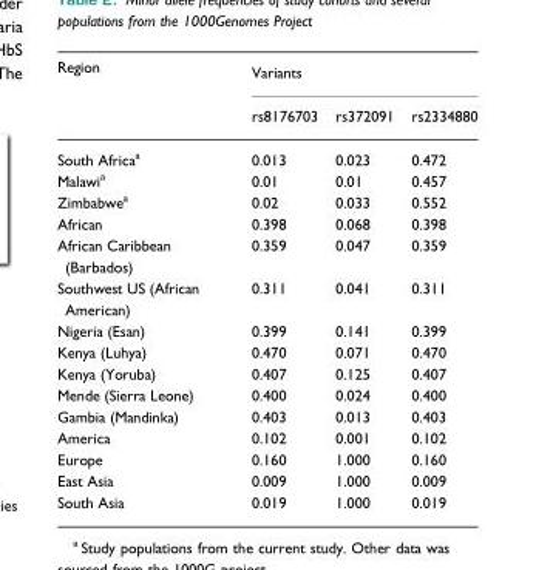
<table><thead><tr><td rowspan="2">Region</td><td colspan="3">Variants</td></tr><tr><td>rs8176703</td><td>rs372091</td><td>rs2334880</td></tr></thead><tbody><tr><td>South Africa<sup>a</sup></td><td>0.013</td><td>0.023</td><td>0.472</td></tr><tr><td>Malawi<sup>a</sup></td><td>0.01</td><td>0.01</td><td>0.457</td></tr><tr><td>Zimbabwe<sup>a</sup></td><td>0.02</td><td>0.033</td><td>0.552</td></tr><tr><td>African</td><td>0.398</td><td>0.068</td><td>0.398</td></tr><tr><td>African Caribbean (Barbados)</td><td>0.359</td><td>0.047</td><td>0.359</td></tr><tr><td>Southwest US (African American)</td><td>0.311</td><td>0.041</td><td>0.311</td></tr><tr><td>Nigeria (Esan)</td><td>0.399</td><td>0.141</td><td>0.399</td></tr><tr><td>Kenya (Luhya)</td><td>0.470</td><td>0.071</td><td>0.470</td></tr><tr><td>Kenya (Yoruba)</td><td>0.407</td><td>0.125</td><td>0.407</td></tr><tr><td>Mende (Sierra Leone)</td><td>0.400</td><td>0.024</td><td>0.400</td></tr><tr><td>Gambia (Mandinka)</td><td>0.403</td><td>0.013</td><td>0.403</td></tr><tr><td>America</td><td>0.102</td><td>0.001</td><td>0.102</td></tr><tr><td>Europe</td><td>0.160</td><td>1.000</td><td>0.160</td></tr><tr><td>East Asia</td><td>0.009</td><td>1.000</td><td>0.009</td></tr><tr><td>South Asia</td><td>0.019</td><td>1.000</td><td>0.019</td></tr></tbody></table>